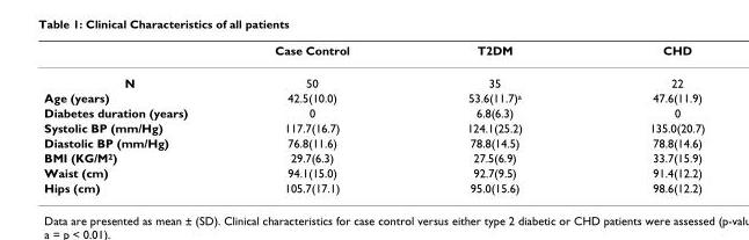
<table><thead><tr><td></td><td>Case Control</td><td>T2DM</td><td>CHD</td></tr></thead><tbody><tr><td>N</td><td>50</td><td>35</td><td>22</td></tr><tr><td>Age (years)</td><td>42.5(10.0)</td><td>53.6(11.7)<sup>a</sup></td><td>47.6(11.9)</td></tr><tr><td>Diabetes duration (years)</td><td>0</td><td>6.8(6.3)</td><td>0</td></tr><tr><td>Systolic BP (mm/Hg)</td><td>117.7(16.7)</td><td>124.1(25.2)</td><td>135.0(20.7)</td></tr><tr><td>Diastolic BP (mm/Hg)</td><td>76.8(11.6)</td><td>78.8(14.5)</td><td>78.8(14.6)</td></tr><tr><td>BMI (KG/M<sup>2</sup>)</td><td>29.7(6.3)</td><td>27.5(6.9)</td><td>33.7(15.9)</td></tr><tr><td>Waist (cm)</td><td>94.1(15.0)</td><td>92.7(9.5)</td><td>91.4(12.2)</td></tr><tr><td>Hips (cm)</td><td>105.7(17.1)</td><td>95.0(15.6)</td><td>98.6(12.2)</td></tr></tbody></table>